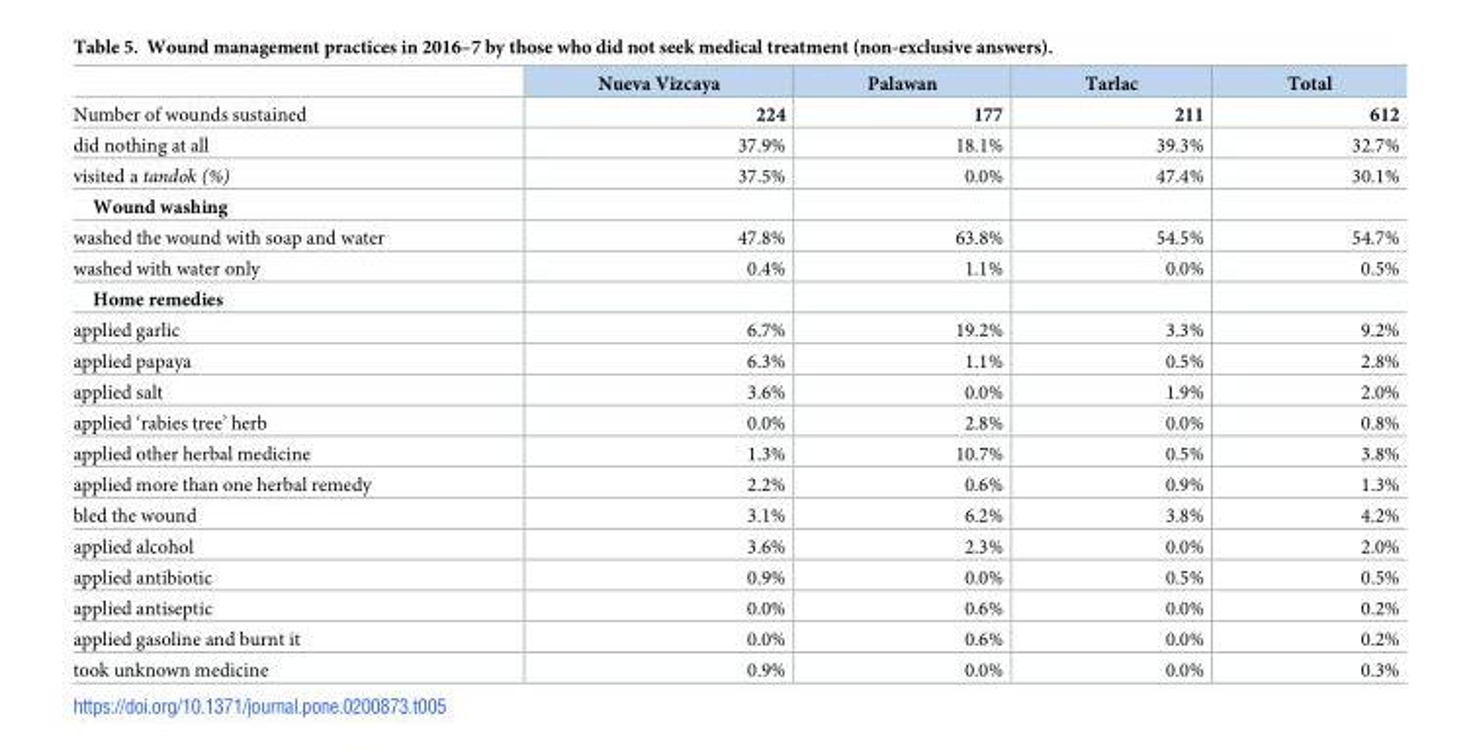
<table><thead><tr><td></td><td>Nueva Vizcaya</td><td>Palawan</td><td>Tarlac</td><td>Total</td></tr></thead><tbody><tr><td>Number of wounds sustained</td><td>224</td><td>177</td><td>211</td><td>612</td></tr><tr><td>did nothing at all</td><td>37.9%</td><td>18.1%</td><td>39.3%</td><td>32.7%</td></tr><tr><td>visited a tandok (%)</td><td>37.5%</td><td>0.0%</td><td>47.4%</td><td>30.1%</td></tr><tr><td colspan="5">Wound washing</td></tr><tr><td>washed the wound with soap and water</td><td>47.8%</td><td>63.8%</td><td>54.5%</td><td>54.7%</td></tr><tr><td>washed with water only</td><td>0.4%</td><td>1.1%</td><td>0.0%</td><td>0.5%</td></tr><tr><td colspan="5">Home remedies</td></tr><tr><td>applied garlic</td><td>6.7%</td><td>19.2%</td><td>3.3%</td><td>9.2%</td></tr><tr><td>applied papaya</td><td>6.3%</td><td>1.1%</td><td>0.5%</td><td>2.8%</td></tr><tr><td>applied salt</td><td>3.6%</td><td>0.0%</td><td>1.9%</td><td>2.0%</td></tr><tr><td>applied ‘rabies tree’ herb</td><td>0.0%</td><td>2.8%</td><td>0.0%</td><td>0.8%</td></tr><tr><td>applied other herbal medicine</td><td>1.3%</td><td>10.7%</td><td>0.5%</td><td>3.8%</td></tr><tr><td>applied more than one herbal remedy</td><td>2.2%</td><td>0.6%</td><td>0.9%</td><td>1.3%</td></tr><tr><td>bled the wound</td><td>3.1%</td><td>6.2%</td><td>3.8%</td><td>4.2%</td></tr><tr><td>applied alcohol</td><td>3.6%</td><td>2.3%</td><td>0.0%</td><td>2.0%</td></tr><tr><td>applied antibiotic</td><td>0.9%</td><td>0.0%</td><td>0.5%</td><td>0.5%</td></tr><tr><td>applied antiseptic</td><td>0.0%</td><td>0.6%</td><td>0.0%</td><td>0.2%</td></tr><tr><td>applied gasoline and burnt it</td><td>0.0%</td><td>0.6%</td><td>0.0%</td><td>0.2%</td></tr><tr><td>took unknown medicine</td><td>0.9%</td><td>0.0%</td><td>0.0%</td><td>0.3%</td></tr></tbody></table>